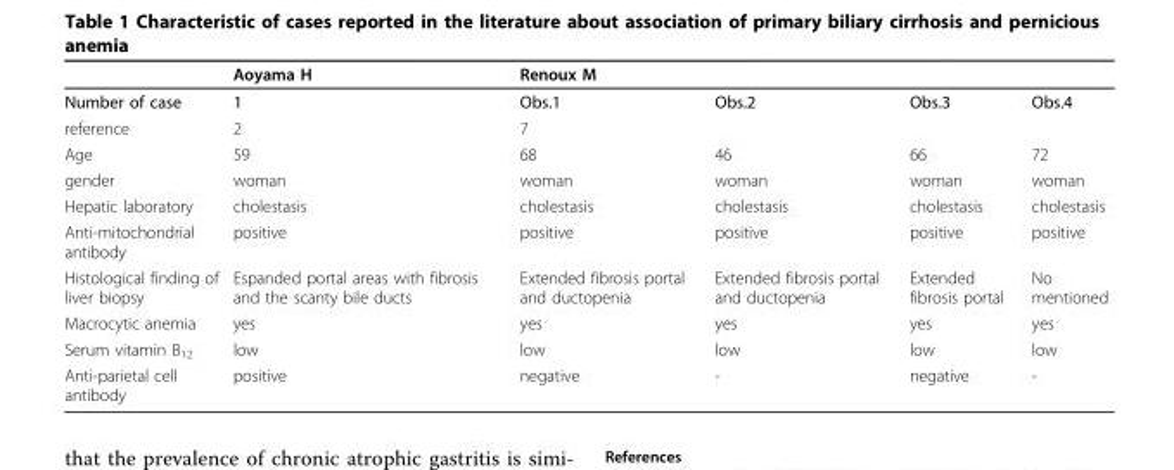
<table><thead><tr><td rowspan="2">Number of case</td><td rowspan="2">Aoyama H 1</td><td colspan="4">Renoux M</td></tr><tr><td>Obs.1</td><td>Obs.2</td><td>Obs.3</td><td>Obs.4</td></tr></thead><tbody><tr><td>reference</td><td>2</td><td>7</td><td></td><td></td><td></td></tr><tr><td>Age</td><td>59</td><td>68</td><td>46</td><td>66</td><td>72</td></tr><tr><td>gender</td><td>woman</td><td>woman</td><td>woman</td><td>woman</td><td>woman</td></tr><tr><td>Hepatic laboratory</td><td>cholestasis</td><td>cholestasis</td><td>cholestasis</td><td>cholestasis</td><td>cholestasis</td></tr><tr><td>Anti-mitochondrial antibody</td><td>positive</td><td>positive</td><td>positive</td><td>positive</td><td>positive</td></tr><tr><td>Histological finding of liver biopsy</td><td>Espanded portal areas with fibrosis and the scanty bile ducts</td><td>Extended fibrosis portal and ductopenia</td><td>Extended fibrosis portal and ductopenia</td><td>Extended fibrosis portal</td><td>No mentioned</td></tr><tr><td>Macrocytic anemia</td><td>yes</td><td>yes</td><td>yes</td><td>yes</td><td>yes</td></tr><tr><td>Serum vitamin B<sub>12</sub></td><td>low</td><td>low</td><td>low</td><td>low</td><td>low</td></tr><tr><td>Anti-parietal cell antibody</td><td>positive</td><td>negative</td><td>-</td><td>negative</td><td>-</td></tr></tbody></table>